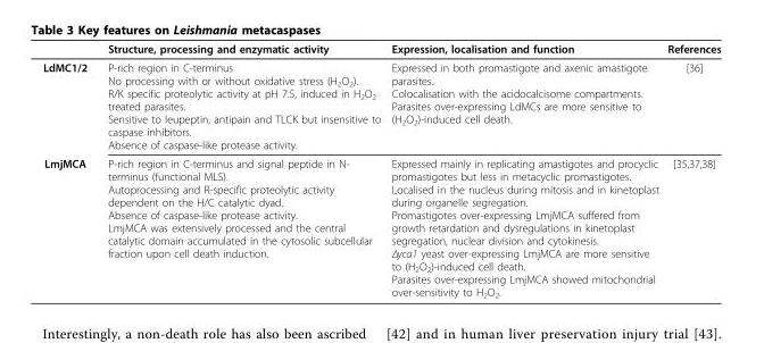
<table><thead><tr><td></td><td>Structure, processing and enzymatic activity</td><td>Expression, localisation and function</td><td>References</td></tr></thead><tbody><tr><td>LdMC1/2</td><td>P-rich region in C-terminus No processing with or without oxidative stress (H<sub>2</sub>O<sub>2</sub>). R/K specific proteolytic activity at pH 7.5, induced in H<sub>2</sub>O<sub>2</sub> treated parasites. Sensitive to leupeptin, antipain and TLCK but insensitive to caspase inhibitors. Absence of caspase-like protease activity.</td><td>Expressed in both promastigote and axenic amastigote parasites. Colocalisation with the acidocalcisome compartments. Parasites over-expressing LdMCs are more sensitive to (H<sub>2</sub>O<sub>2</sub>)-induced cell death.</td><td>[36]</td></tr><tr><td>LmjMCA</td><td>P-rich region in C-terminus and signal peptide in N- terminus (functional MLS). Autoprocessing and R-specific proteolytic activity dependent on the H/C catalytic dyad. Absence of caspase-like protease activity. LmjMCA was extensively processed and the central catalytic domain accumulated in the cytosolic subcellular fraction upon cell death induction.</td><td>Expressed mainly in replicating amastigotes and procyclic promastigotes but less in metacyclic promastigotes. Localised in the nucleus during mitosis and in kinetoplast during organelle segregation. Promastigotes over-expressing LmjMCA suffered from growth retardation and dysregulations in kinetoplast segregation, nuclear division and cytokinesis. Δyca1 yeast over-expressing LmjMCA are more sensitive to (H<sub>2</sub>O<sub>2</sub>)-induced cell death. Parasites over-expressing LmjMCA showed mitochondrial over-sensitivity to H<sub>2</sub>O<sub>2</sub>.</td><td>[35,37,38]</td></tr></tbody></table>